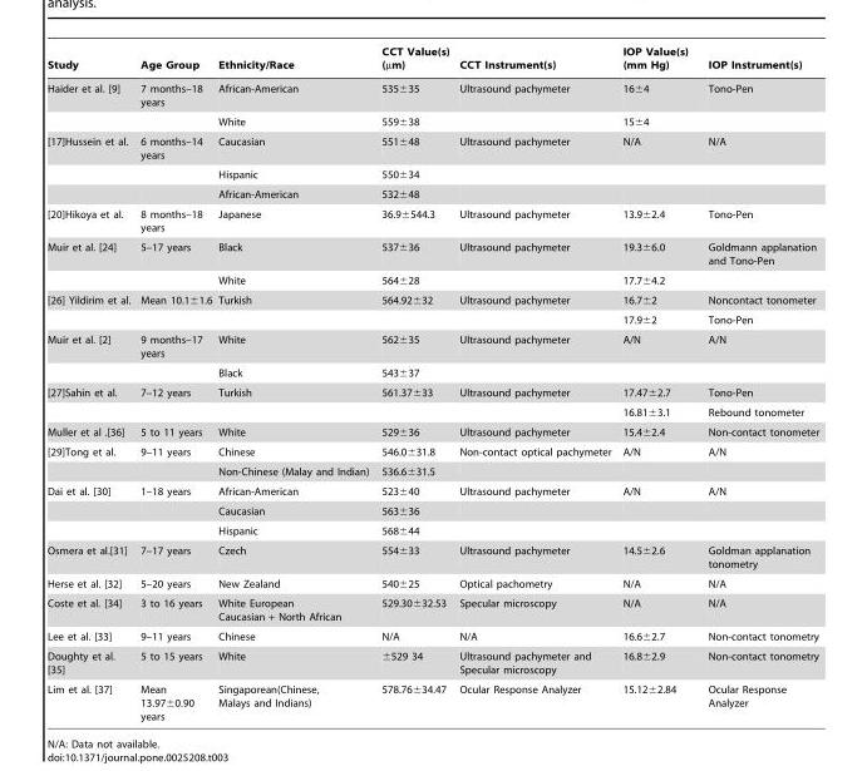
<table><thead><tr><td>Study</td><td>Age Group</td><td>Ethnicity/Race</td><td>CCT Value(s) (µm)</td><td>CCT Instrument(s)</td><td>IOP Value(s) (mm Hg)</td><td>IOP Instrument(s)</td></tr></thead><tbody><tr><td rowspan="2">Haider et al. [9]</td><td>7 months–18 years</td><td>African-American</td><td>535±35</td><td>Ultrasound pachymeter</td><td>16±4</td><td>Tono-Pen</td></tr><tr><td></td><td>White</td><td>559±38</td><td></td><td>15±4</td><td></td></tr><tr><td rowspan="3">[17]Hussein et al.</td><td>6 months–14 years</td><td>Caucasian</td><td>551±48</td><td>Ultrasound pachymeter</td><td>N/A</td><td>N/A</td></tr><tr><td></td><td>Hispanic</td><td>550±34</td><td></td><td></td><td></td></tr><tr><td></td><td>African-American</td><td>532±48</td><td></td><td></td><td></td></tr><tr><td>[20]Hikoya et al.</td><td>8 months–18 years</td><td>Japanese</td><td>36.9±544.3</td><td>Ultrasound pachymeter</td><td>13.9±2.4</td><td>Tono-Pen</td></tr><tr><td rowspan="2">Muir et al. [24]</td><td>5–17 years</td><td>Black</td><td>537±36</td><td>Ultrasound pachymeter</td><td>19.3±6.0</td><td>Goldmann applanation and Tono-Pen</td></tr><tr><td></td><td>White</td><td>564±28</td><td></td><td>17.7±4.2</td><td></td></tr><tr><td rowspan="2">[26] Yildirim et al.</td><td>Mean 10.1±1.6</td><td>Turkish</td><td>564.92±32</td><td>Ultrasound pachymeter</td><td>16.7±2</td><td>Noncontact tonometer</td></tr><tr><td></td><td></td><td></td><td></td><td>17.9±2</td><td>Tono-Pen</td></tr><tr><td rowspan="2">Muir et al. [2]</td><td>9 months–17 years</td><td>White</td><td>562±35</td><td>Ultrasound pachymeter</td><td>A/N</td><td>A/N</td></tr><tr><td></td><td>Black</td><td>543±37</td><td></td><td></td><td></td></tr><tr><td rowspan="2">[27]Sahin et al.</td><td>7–12 years</td><td>Turkish</td><td>561.37±33</td><td>Ultrasound pachymeter</td><td>17.47±2.7</td><td>Tono-Pen</td></tr><tr><td></td><td></td><td></td><td></td><td>16.81±3.1</td><td>Rebound tonometer</td></tr><tr><td>Muller et al .[36]</td><td>5 to 11 years</td><td>White</td><td>529±36</td><td>Ultrasound pachymeter</td><td>15.4±2.4</td><td>Non-contact tonometer</td></tr><tr><td rowspan="2">[29]Tong et al.</td><td>9–11 years</td><td>Chinese</td><td>546.0±31.8</td><td>Non-contact optical pachymeter</td><td>A/N</td><td>A/N</td></tr><tr><td></td><td>Non-Chinese (Malay and Indian)</td><td>536.6±31.5</td><td></td><td></td><td></td></tr><tr><td rowspan="3">Dai et al. [30]</td><td>1–18 years</td><td>African-American</td><td>523±40</td><td>Ultrasound pachymeter</td><td>A/N</td><td>A/N</td></tr><tr><td></td><td>Caucasian</td><td>563±36</td><td></td><td></td><td></td></tr><tr><td></td><td>Hispanic</td><td>568±44</td><td></td><td></td><td></td></tr><tr><td>Osmera et al.[31]</td><td>7–17 years</td><td>Czech</td><td>554±33</td><td>Ultrasound pachymeter</td><td>14.5±2.6</td><td>Goldman applanation tonometry</td></tr><tr><td>Herse et al. [32]</td><td>5–20 years</td><td>New Zealand</td><td>540±25</td><td>Optical pachometry</td><td>N/A</td><td>N/A</td></tr><tr><td>Coste et al. [34]</td><td>3 to 16 years</td><td>White European Caucasian + North African</td><td>529.30±32.53</td><td>Specular microscopy</td><td>N/A</td><td>N/A</td></tr><tr><td>Lee et al. [33]</td><td>9–11 years</td><td>Chinese</td><td>N/A</td><td>N/A</td><td>16.6±2.7</td><td>Non-contact tonometry</td></tr><tr><td>Doughty et al. [35]</td><td>5 to 15 years</td><td>White</td><td>±529 34</td><td>Ultrasound pachymeter and Specular microscopy</td><td>16.8±2.9</td><td>Non-contact tonometry</td></tr><tr><td>Lim et al. [37]</td><td>Mean 13.97±0.90 years</td><td>Singaporean(Chinese, Malays and Indians)</td><td>578.76±34.47</td><td>Ocular Response Analyzer</td><td>15.12±2.84</td><td>Ocular Response Analyzer</td></tr></tbody></table>